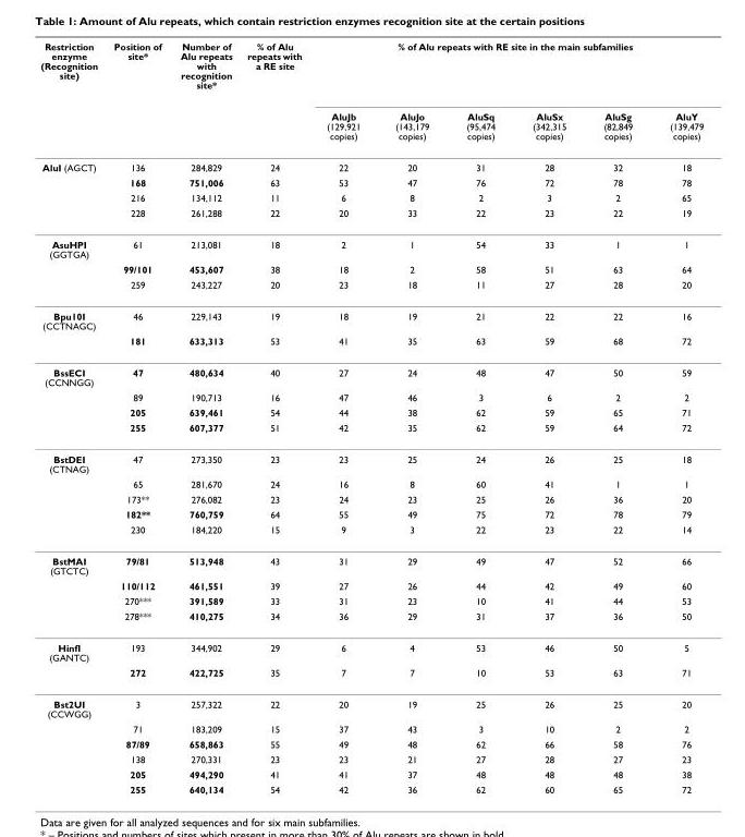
<table><thead><tr><td rowspan="2">Restriction enzyme (Recognition site)</td><td rowspan="2">Position of site*</td><td rowspan="2">Number of Alu repeats with recognition site*</td><td rowspan="2">% of Alu repeats with a RE site</td><td colspan="6">% of Alu repeats with RE site in the main subfamilies</td></tr><tr><td>AluJb (129,921 copies)</td><td>AluJo (143,179 copies)</td><td>AluSq (95,474 copies)</td><td>AluSx (342,315 copies)</td><td>AluSg (82,849 copies)</td><td>AluY (139,479 copies)</td></tr></thead><tbody><tr><td rowspan="4">AluI (AGCT)</td><td>136</td><td>284,829</td><td>24</td><td>22</td><td>20</td><td>31</td><td>28</td><td>32</td><td>18</td></tr><tr><td>168</td><td>751,006</td><td>63</td><td>53</td><td>47</td><td>76</td><td>72</td><td>78</td><td>78</td></tr><tr><td>216</td><td>134,112</td><td>11</td><td>6</td><td>8</td><td>2</td><td>3</td><td>2</td><td>65</td></tr><tr><td>228</td><td>261,288</td><td>22</td><td>20</td><td>33</td><td>22</td><td>23</td><td>22</td><td>19</td></tr><tr><td rowspan="3">AsuHPI (GGTGA)</td><td>61</td><td>213,081</td><td>18</td><td>2</td><td>1</td><td>54</td><td>33</td><td>1</td><td>1</td></tr><tr><td>99/101</td><td>453,607</td><td>38</td><td>18</td><td>2</td><td>58</td><td>51</td><td>63</td><td>64</td></tr><tr><td>259</td><td>243,227</td><td>20</td><td>23</td><td>18</td><td>11</td><td>27</td><td>28</td><td>20</td></tr><tr><td rowspan="2">Bpu10I (CCTNAGC)</td><td>46</td><td>229,143</td><td>19</td><td>18</td><td>19</td><td>21</td><td>22</td><td>22</td><td>16</td></tr><tr><td>181</td><td>633,313</td><td>53</td><td>41</td><td>35</td><td>63</td><td>59</td><td>68</td><td>72</td></tr><tr><td rowspan="4">BssECI (CCNNGG)</td><td>47</td><td>480,634</td><td>40</td><td>27</td><td>24</td><td>48</td><td>47</td><td>50</td><td>59</td></tr><tr><td>89</td><td>190,713</td><td>16</td><td>47</td><td>46</td><td>3</td><td>6</td><td>2</td><td>2</td></tr><tr><td>205</td><td>639,461</td><td>54</td><td>44</td><td>38</td><td>62</td><td>59</td><td>65</td><td>71</td></tr><tr><td>255</td><td>607,377</td><td>51</td><td>42</td><td>35</td><td>62</td><td>59</td><td>64</td><td>72</td></tr><tr><td rowspan="5">BstDEI (CTNAG)</td><td>47</td><td>273,350</td><td>23</td><td>23</td><td>25</td><td>24</td><td>26</td><td>25</td><td>18</td></tr><tr><td>65</td><td>281,670</td><td>24</td><td>16</td><td>8</td><td>60</td><td>41</td><td>1</td><td>1</td></tr><tr><td>173**</td><td>276,082</td><td>23</td><td>24</td><td>23</td><td>25</td><td>26</td><td>36</td><td>20</td></tr><tr><td>182**</td><td>760,759</td><td>64</td><td>55</td><td>49</td><td>75</td><td>72</td><td>78</td><td>79</td></tr><tr><td>230</td><td>184,220</td><td>15</td><td>9</td><td>3</td><td>22</td><td>23</td><td>22</td><td>14</td></tr><tr><td rowspan="4">BstMAI (GTCTC)</td><td>79/81</td><td>513,948</td><td>43</td><td>31</td><td>29</td><td>49</td><td>47</td><td>52</td><td>66</td></tr><tr><td>110/112</td><td>461,551</td><td>39</td><td>27</td><td>26</td><td>44</td><td>42</td><td>49</td><td>60</td></tr><tr><td>270***</td><td>391,589</td><td>33</td><td>31</td><td>23</td><td>10</td><td>41</td><td>44</td><td>53</td></tr><tr><td>278***</td><td>410,275</td><td>34</td><td>36</td><td>29</td><td>31</td><td>37</td><td>36</td><td>50</td></tr><tr><td rowspan="2">HinfI (GANTC)</td><td>193</td><td>344,902</td><td>29</td><td>6</td><td>4</td><td>53</td><td>46</td><td>50</td><td>5</td></tr><tr><td>272</td><td>422,725</td><td>35</td><td>7</td><td>7</td><td>10</td><td>53</td><td>63</td><td>71</td></tr><tr><td rowspan="6">Bst2UI (CCWGG)</td><td>3</td><td>257,322</td><td>22</td><td>20</td><td>19</td><td>25</td><td>26</td><td>25</td><td>20</td></tr><tr><td>71</td><td>183,209</td><td>15</td><td>37</td><td>43</td><td>3</td><td>10</td><td>2</td><td>2</td></tr><tr><td>87/89</td><td>658,863</td><td>55</td><td>49</td><td>48</td><td>62</td><td>66</td><td>58</td><td>76</td></tr><tr><td>138</td><td>270,331</td><td>23</td><td>23</td><td>21</td><td>27</td><td>28</td><td>27</td><td>23</td></tr><tr><td>205</td><td>494,290</td><td>41</td><td>41</td><td>37</td><td>48</td><td>48</td><td>48</td><td>38</td></tr><tr><td>255</td><td>640,134</td><td>54</td><td>42</td><td>36</td><td>62</td><td>60</td><td>65</td><td>72</td></tr></tbody></table>